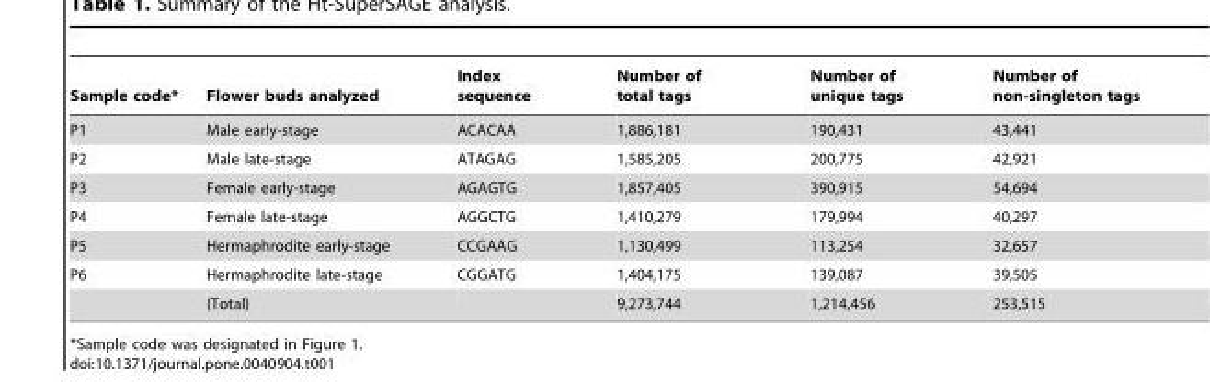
<table><thead><tr><td>Sample code*</td><td>Flower buds analyzed</td><td>Index sequence</td><td>Number of total tags</td><td>Number of unique tags</td><td>Number of non-singleton tags</td></tr></thead><tbody><tr><td>P1</td><td>Male early-stage</td><td>ACACAA</td><td>1,886,181</td><td>190,431</td><td>43,441</td></tr><tr><td>P2</td><td>Male late-stage</td><td>ATAGAG</td><td>1,585,205</td><td>200,775</td><td>42,921</td></tr><tr><td>P3</td><td>Female early-stage</td><td>AGAGTG</td><td>1,857,405</td><td>390,915</td><td>54,694</td></tr><tr><td>P4</td><td>Female late-stage</td><td>AGGCTG</td><td>1,410,279</td><td>179,994</td><td>40,297</td></tr><tr><td>P5</td><td>Hermaphrodite early-stage</td><td>CCGAAG</td><td>1,130,499</td><td>113,254</td><td>32,657</td></tr><tr><td rowspan="2">P6</td><td>Hermaphrodite late-stage</td><td>CGGATG</td><td>1,404,175</td><td>139,087</td><td>39,505</td></tr><tr><td>(Total)</td><td></td><td>9,273,744</td><td>1,214,456</td><td>253,515</td></tr></tbody></table>